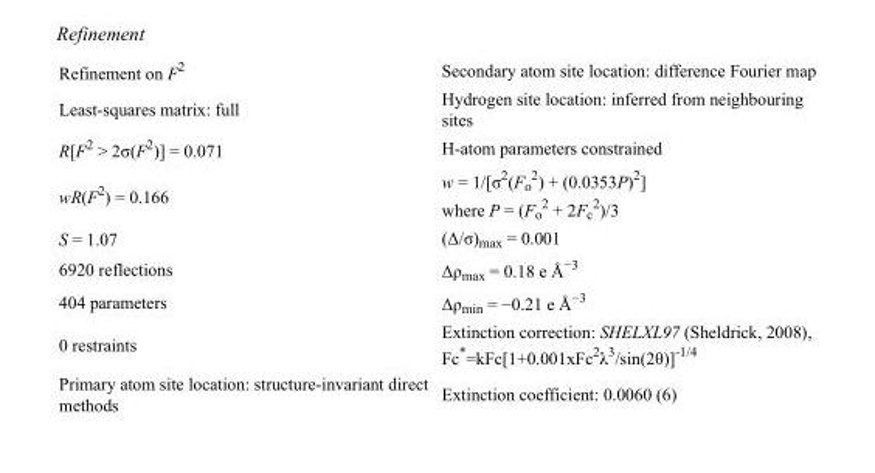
<table><tbody><tr><td>Refinement on F<sup>2</sup></td><td>Secondary atom site location: difference Fourier map</td></tr><tr><td>Least-squares matrix: full</td><td>Hydrogen site location: inferred from neighbouring sites</td></tr><tr><td>R[F<sup>2</sup> &gt; 2σ(F<sup>2</sup>)] = 0.071</td><td>H-atom parameters constrained</td></tr><tr><td>wR(F<sup>2</sup>) = 0.166</td><td>w = 1/[σ<sup>2</sup>(F<sub>o</sub> <sup>2</sup>) + (0.0353P)<sup>2</sup>] where P = (F<sub>o</sub> <sup>2</sup> + 2F<sub>c</sub> <sup>2</sup>)/3</td></tr><tr><td>S = 1.07</td><td>(Δ/σ)<sub>max</sub> = 0.001</td></tr><tr><td>6920 reflections</td><td>Δρ<sub>max</sub> = 0.18 e Å<sup>−3</sup></td></tr><tr><td>404 parameters</td><td>Δρ<sub>min</sub> = −0.21 e Å<sup>−3</sup></td></tr><tr><td>0 restraints</td><td>Extinction correction: SHELXL97 (Sheldrick, 2008), Fc*=kFc[1+0.001xFc<sup>2</sup>λ<sup>3</sup>/sin(2θ)]<sup>-1/4</sup></td></tr><tr><td>Primary atom site location: structure-invariant direct methods</td><td>Extinction coefficient: 0.0060 (6)</td></tr></tbody></table>